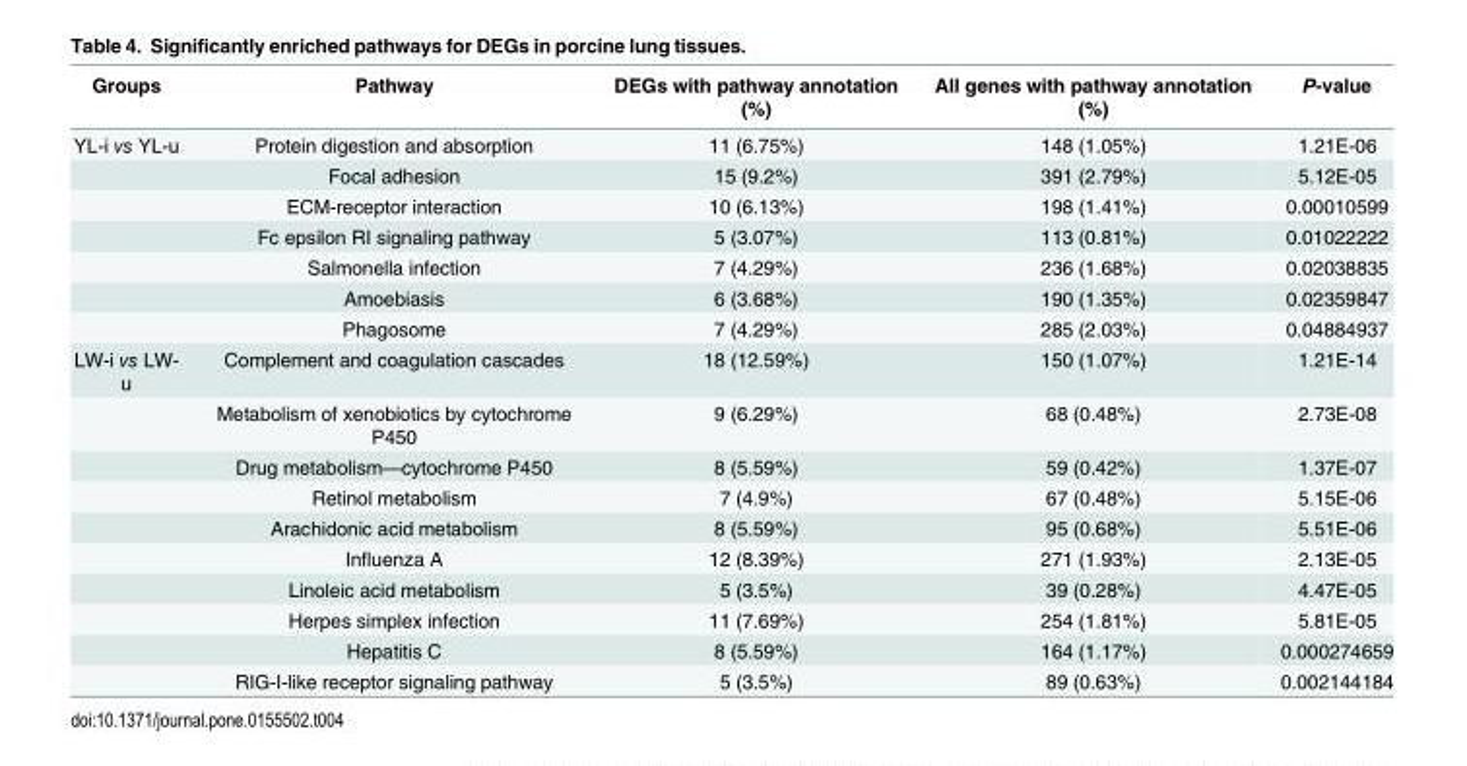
<table><thead><tr><td>Groups</td><td>Pathway</td><td>DEGs with pathway annotation (%)</td><td>All genes with pathway annotation (%)</td><td>P-value</td></tr></thead><tbody><tr><td rowspan="7">YL-i vs YL-u</td><td>Protein digestion and absorption</td><td>11 (6.75%)</td><td>148 (1.05%)</td><td>1.21E-06</td></tr><tr><td>Focal adhesion</td><td>15 (9.2%)</td><td>391 (2.79%)</td><td>5.12E-05</td></tr><tr><td>ECM-receptor interaction</td><td>10 (6.13%)</td><td>198 (1.41%)</td><td>0.00010599</td></tr><tr><td>Fc epsilon RI signaling pathway</td><td>5 (3.07%)</td><td>113 (0.81%)</td><td>0.01022222</td></tr><tr><td>Salmonella infection</td><td>7 (4.29%)</td><td>236 (1.68%)</td><td>0.02038835</td></tr><tr><td>Amoebiasis</td><td>6 (3.68%)</td><td>190 (1.35%)</td><td>0.02359847</td></tr><tr><td>Phagosome</td><td>7 (4.29%)</td><td>285 (2.03%)</td><td>0.04884937</td></tr><tr><td rowspan="10">LW-i vs LW- u</td><td>Complement and coagulation cascades</td><td>18 (12.59%)</td><td>150 (1.07%)</td><td>1.21E-14</td></tr><tr><td>Metabolism of xenobiotics by cytochrome P450</td><td>9 (6.29%)</td><td>68 (0.48%)</td><td>2.73E-08</td></tr><tr><td>Drug metabolism—cytochrome P450</td><td>8 (5.59%)</td><td>59 (0.42%)</td><td>1.37E-07</td></tr><tr><td>Retinol metabolism</td><td>7 (4.9%)</td><td>67 (0.48%)</td><td>5.15E-06</td></tr><tr><td>Arachidonic acid metabolism</td><td>8 (5.59%)</td><td>95 (0.68%)</td><td>5.51E-06</td></tr><tr><td>Influenza A</td><td>12 (8.39%)</td><td>271 (1.93%)</td><td>2.13E-05</td></tr><tr><td>Linoleic acid metabolism</td><td>5 (3.5%)</td><td>39 (0.28%)</td><td>4.47E-05</td></tr><tr><td>Herpes simplex infection</td><td>11 (7.69%)</td><td>254 (1.81%)</td><td>5.81E-05</td></tr><tr><td>Hepatitis C</td><td>8 (5.59%)</td><td>164 (1.17%)</td><td>0.000274659</td></tr><tr><td>RIG-I-like receptor signaling pathway</td><td>5 (3.5%)</td><td>89 (0.63%)</td><td>0.002144184</td></tr></tbody></table>